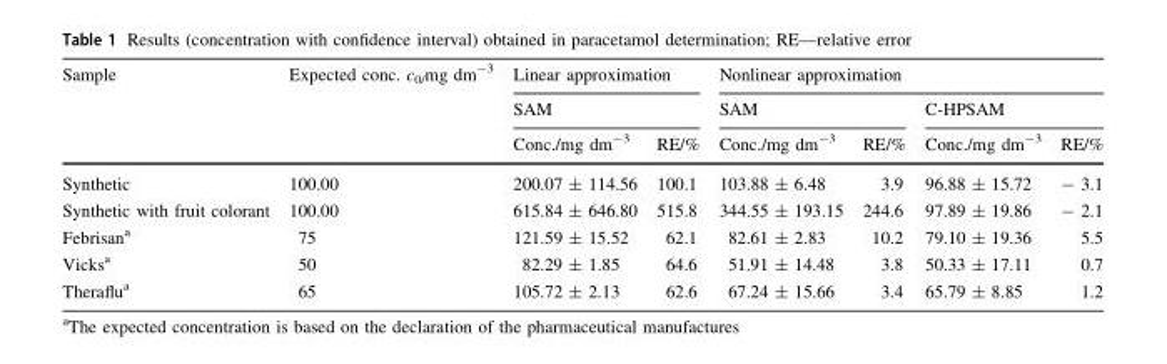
<table><thead><tr><td rowspan="3">Sample</td><td rowspan="3">Expected conc. c<sub>0/</sub>mg dm<sup>-3</sup></td><td rowspan="2" colspan="2">Linear approximation SAM</td><td colspan="4">Nonlinear approximation</td></tr><tr><td colspan="2">SAM</td><td colspan="2">C-HPSAM</td></tr><tr><td>Conc./mg dm<sup>-3</sup></td><td>RE/%</td><td>Conc./mg dm<sup>-3</sup></td><td>RE/%</td><td>Conc./mg dm<sup>-3</sup></td><td>RE/%</td></tr></thead><tbody><tr><td>Synthetic</td><td>100.00</td><td>200.07 ± 114.56</td><td>100.1</td><td>103.88 ± 6.48</td><td>3.9</td><td>96.88 ± 15.72</td><td>- 3.1</td></tr><tr><td>Synthetic with fruit colorant</td><td>100.00</td><td>615.84 ± 646.80</td><td>515.8</td><td>344.55 ± 193.15</td><td>244.6</td><td>97.89 ± 19.86</td><td>- 2.1</td></tr><tr><td>Febrisan<sup>a</sup></td><td>75</td><td>121.59 ± 15.52</td><td>62.1</td><td>82.61 ± 2.83</td><td>10.2</td><td>79.10 ± 19.36</td><td>5.5</td></tr><tr><td>Vicks<sup>a</sup></td><td>50</td><td>82.29 ± 1.85</td><td>64.6</td><td>51.91 ± 14.48</td><td>3.8</td><td>50.33 ± 17.11</td><td>0.7</td></tr><tr><td>Theraflu<sup>a</sup></td><td>65</td><td>105.72 ± 2.13</td><td>62.6</td><td>67.24 ± 15.66</td><td>3.4</td><td>65.79 ± 8.85</td><td>1.2</td></tr></tbody></table>